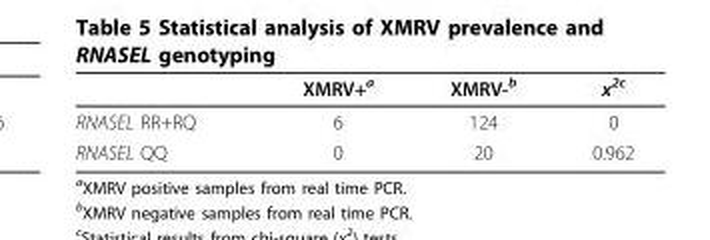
<table><thead><tr><td></td><td>XMRV+<sup>a</sup></td><td>XMRV-<sup>b</sup></td><td>x<sup>2c</sup></td></tr></thead><tbody><tr><td>RNASEL RR+RQ</td><td>6</td><td>124</td><td>0</td></tr><tr><td>RNASEL QQ</td><td>0</td><td>20</td><td>0.962</td></tr></tbody></table>